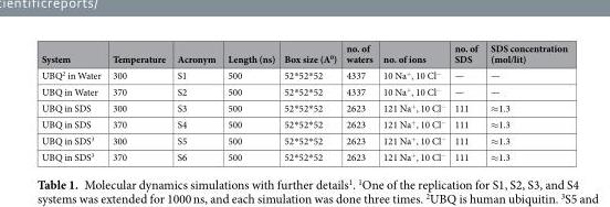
<table><thead><tr><td>System</td><td>Temperature</td><td>Acronym</td><td>Length (ns)</td><td>Box size (A<sup>0</sup>)</td><td>no. of waters</td><td>no. of ions</td><td>no. of SDS</td><td>SDS concentration (mol/lit)</td></tr></thead><tbody><tr><td>UBQ<sup>2</sup> in Water</td><td>300</td><td>S1</td><td>500</td><td>52*52*52</td><td>4337</td><td>10 Na<sup>+</sup>, 10 Cl<sup>−</sup></td><td>—</td><td>—</td></tr><tr><td>UBQ in Water</td><td>370</td><td>S2</td><td>500</td><td>52*52*52</td><td>4337</td><td>10 Na<sup>+</sup>, 10 Cl<sup>−</sup></td><td>—</td><td>—</td></tr><tr><td>UBQ in SDS</td><td>300</td><td>S3</td><td>500</td><td>52*52*52</td><td>2623</td><td>121 Na<sup>+</sup>, 10 Cl<sup>−</sup></td><td>111</td><td>≈1.3</td></tr><tr><td>UBQ in SDS</td><td>370</td><td>S4</td><td>500</td><td>52*52*52</td><td>2623</td><td>121 Na<sup>+</sup>, 10 Cl<sup>−</sup></td><td>111</td><td>≈1.3</td></tr><tr><td>UBQ in SDS<sup>3</sup></td><td>300</td><td>S5</td><td>500</td><td>52*52*52</td><td>2623</td><td>121 Na<sup>+</sup>, 10 Cl<sup>−</sup></td><td>111</td><td>≈1.3</td></tr><tr><td>UBQ in SDS<sup>3</sup></td><td>370</td><td>S6</td><td>500</td><td>52*52*52</td><td>2623</td><td>121 Na<sup>+</sup>, 10 Cl<sup>−</sup></td><td>111</td><td>≈1.3</td></tr></tbody></table>